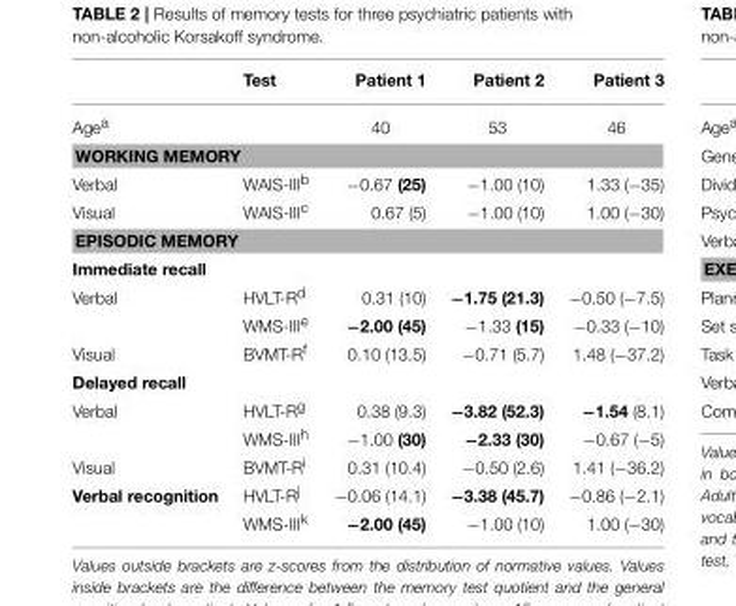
<table><thead><tr><td></td><td>Test</td><td>Patient 1</td><td>Patient 2</td><td>Patient 3</td></tr></thead><tbody><tr><td>Age<sup>a</sup></td><td></td><td>40</td><td>53</td><td>46</td></tr><tr><td colspan="5">WORKING MEMORY</td></tr><tr><td>Verbal</td><td>WAIS-III<sup>b</sup></td><td>−0.67 (25)</td><td>−1.00 (10)</td><td>1.33 (−35)</td></tr><tr><td>Visual</td><td>WAIS-III<sup>c</sup></td><td>0.67 (5)</td><td>−1.00 (10)</td><td>1.00 (−30)</td></tr><tr><td colspan="5">EPISODIC MEMORY</td></tr><tr><td colspan="5">Immediate recall</td></tr><tr><td rowspan="2">Verbal</td><td>HVLT-R<sup>d</sup></td><td>0.31 (10)</td><td>−1.75 (21.3)</td><td>−0.50 (−7.5)</td></tr><tr><td>WMS-III<sup>e</sup></td><td>−2.00 (45)</td><td>−1.33 (15)</td><td>−0.33 (−10)</td></tr><tr><td>Visual</td><td>BVMT-R<sup>f</sup></td><td>0.10 (13.5)</td><td>−0.71 (5.7)</td><td>1.48 (−37.2)</td></tr><tr><td colspan="5">Delayed recall</td></tr><tr><td rowspan="2">Verbal</td><td>HVLT-R<sup>g</sup></td><td>0.38 (9.3)</td><td>−3.82 (52.3)</td><td>−1.54 (8.1)</td></tr><tr><td>WMS-III<sup>h</sup></td><td>−1.00 (30)</td><td>−2.33 (30)</td><td>−0.67 (−5)</td></tr><tr><td>Visual</td><td>BVMT-R<sup>i</sup></td><td>0.31 (10.4)</td><td>−0.50 (2.6)</td><td>1.41 (−36.2)</td></tr><tr><td rowspan="2">Verbal recognition</td><td>HVLT-R<sup>j</sup></td><td>−0.06 (14.1)</td><td>−3.38 (45.7)</td><td>−0.86 (−2.1)</td></tr><tr><td>WMS-III<sup>k</sup></td><td>−2.00 (45)</td><td>−1.00 (10)</td><td>1.00 (−30)</td></tr></tbody></table>